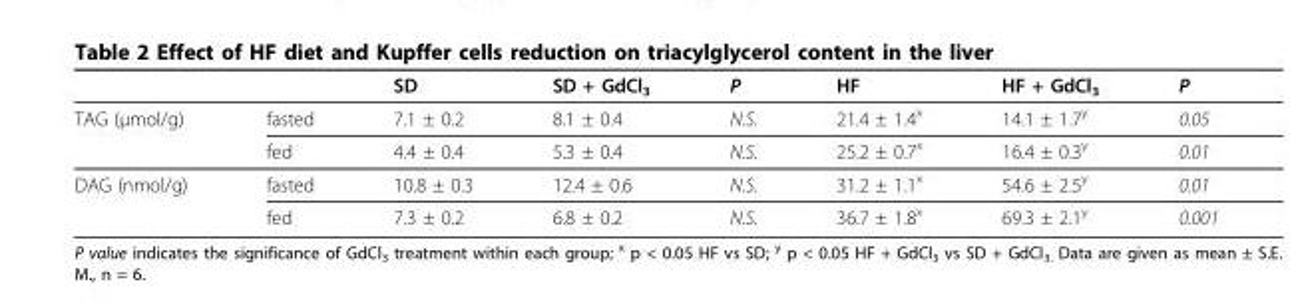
<table><thead><tr><td></td><td></td><td>SD</td><td>SD + GdCl<sub>3</sub></td><td>P</td><td>HF</td><td>HF + GdCl<sub>3</sub></td><td>P</td></tr></thead><tbody><tr><td rowspan="2">TAG (μmol/g)</td><td>fasted</td><td>7.1 ± 0.2</td><td>8.1 ± 0.4</td><td>N.S.</td><td>21.4 ± 1.4<sup>x</sup></td><td>14.1 ± 1.7<sup>y</sup></td><td>0.05</td></tr><tr><td>fed</td><td>4.4 ± 0.4</td><td>5.3 ± 0.4</td><td>N.S.</td><td>25.2 ± 0.7<sup>x</sup></td><td>16.4 ± 0.3<sup>y</sup></td><td>0.01</td></tr><tr><td rowspan="2">DAG (nmol/g)</td><td>fasted</td><td>10.8 ± 0.3</td><td>12.4 ± 0.6</td><td>N.S.</td><td>31.2 ± 1.1<sup>x</sup></td><td>54.6 ± 2.5<sup>y</sup></td><td>0.01</td></tr><tr><td>fed</td><td>7.3 ± 0.2</td><td>6.8 ± 0.2</td><td>N.S.</td><td>36.7 ± 1.8<sup>x</sup></td><td>69.3 ± 2.1<sup>y</sup></td><td>0.001</td></tr></tbody></table>